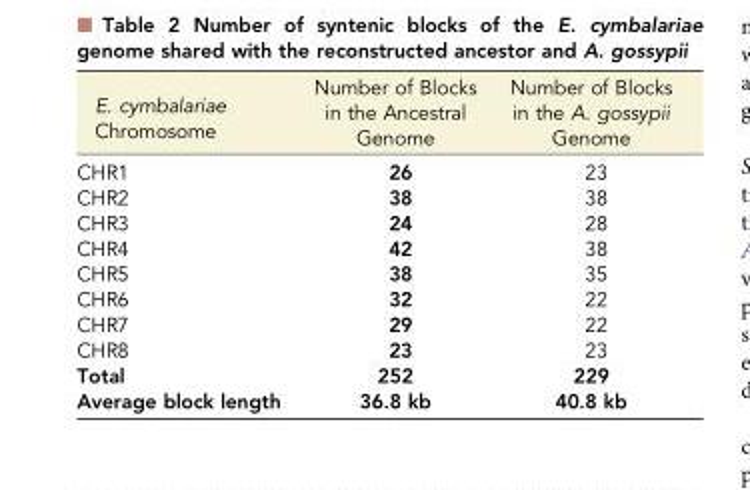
<table><thead><tr><td>E. cymbalariae Chromosome</td><td>Number of Blocks in the Ancestral Genome</td><td>Number of Blocks in the A. gossypii Genome</td></tr></thead><tbody><tr><td>CHR1</td><td>26</td><td>23</td></tr><tr><td>CHR2</td><td>38</td><td>38</td></tr><tr><td>CHR3</td><td>24</td><td>28</td></tr><tr><td>CHR4</td><td>42</td><td>38</td></tr><tr><td>CHR5</td><td>38</td><td>35</td></tr><tr><td>CHR6</td><td>32</td><td>22</td></tr><tr><td>CHR7</td><td>29</td><td>22</td></tr><tr><td>CHR8</td><td>23</td><td>23</td></tr><tr><td>Total</td><td>252</td><td>229</td></tr><tr><td>Average block length</td><td>36.8 kb</td><td>40.8 kb</td></tr></tbody></table>